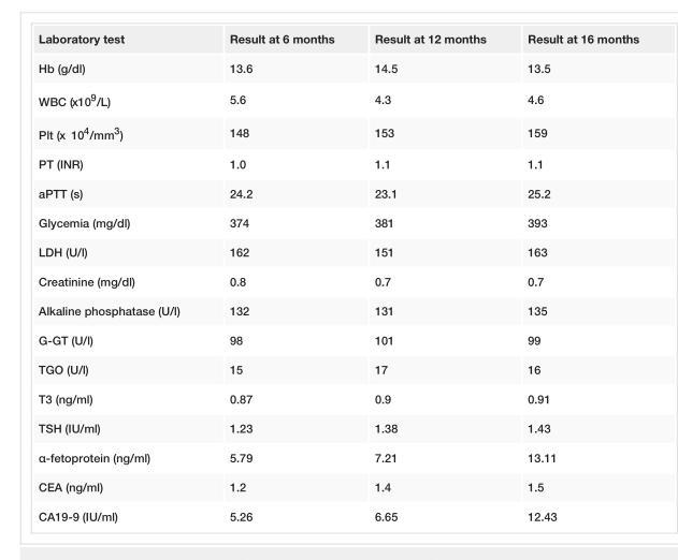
<table><tbody><tr><td>Laboratory test</td><td>Result at 6 months</td><td>Result at 12 months</td><td>Result at 16 months</td></tr><tr><td>Hb (g/dl)</td><td>13.6</td><td>14.5</td><td>13.5</td></tr><tr><td>WBC (x10<sup>9</sup>/L)</td><td>5.6</td><td>4.3</td><td>4.6</td></tr><tr><td>Plt (x10<sup>4</sup>/mm<sup>3</sup>)</td><td>148</td><td>153</td><td>159</td></tr><tr><td>PT (INR)</td><td>1.0</td><td>1.1</td><td>1.1</td></tr><tr><td>aPTT (s)</td><td>24.2</td><td>23.1</td><td>25.2</td></tr><tr><td>Glycemia (mg/dl)</td><td>374</td><td>381</td><td>393</td></tr><tr><td>LDH (U/l)</td><td>162</td><td>151</td><td>163</td></tr><tr><td>Creatinine (mg/dl)</td><td>0.8</td><td>0.7</td><td>0.7</td></tr><tr><td>Alkaline phosphatase (U/l)</td><td>132</td><td>131</td><td>135</td></tr><tr><td>G-GT (U/l)</td><td>98</td><td>101</td><td>99</td></tr><tr><td>TGO (U/l)</td><td>15</td><td>17</td><td>16</td></tr><tr><td>T3 (ng/ml)</td><td>0.87</td><td>0.9</td><td>0.91</td></tr><tr><td>TSH (IU/ml)</td><td>1.23</td><td>1.38</td><td>1.43</td></tr><tr><td>α-fetoprotein (ng/ml)</td><td>5.79</td><td>7.21</td><td>13.11</td></tr><tr><td>CEA (ng/ml)</td><td>1.2</td><td>1.4</td><td>1.5</td></tr><tr><td>CA19-9 (IU/ml)</td><td>5.26</td><td>6.65</td><td>12.43</td></tr></tbody></table>